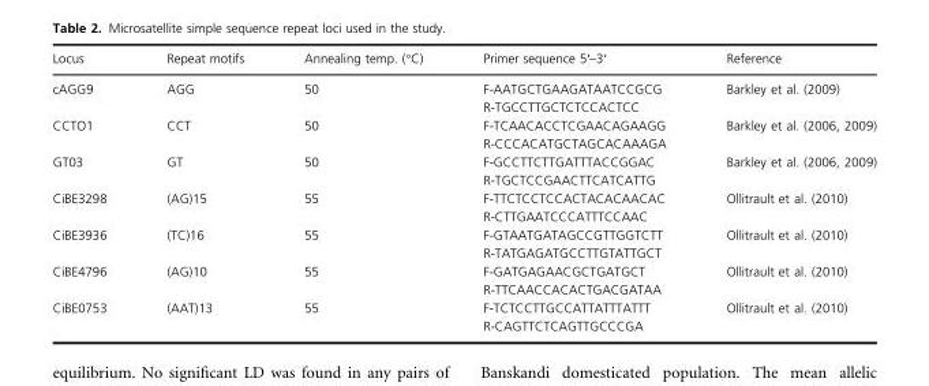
<table><thead><tr><td>Locus</td><td>Repeat motifs</td><td>Annealing temp. (°C)</td><td>Primer sequence 5ʹ–3ʹ</td><td>Reference</td></tr></thead><tbody><tr><td rowspan="2">cAGG9</td><td rowspan="2">AGG</td><td rowspan="2">50</td><td>F-AATGCTGAAGATAATCCGCG</td><td rowspan="2">Barkley et al. (2009)</td></tr><tr><td>R-TGCCTTGCTCTCCACTCC</td></tr><tr><td rowspan="2">CCTO1</td><td rowspan="2">CCT</td><td rowspan="2">50</td><td>F-TCAACACCTCGAACAGAAGG</td><td rowspan="2">Barkley et al. (2006, 2009)</td></tr><tr><td>R-CCCACATGCTAGCACAAAGA</td></tr><tr><td rowspan="2">GT03</td><td rowspan="2">GT</td><td rowspan="2">50</td><td>F-GCCTTCTTGATTTACCGGAC</td><td rowspan="2">Barkley et al. (2006, 2009)</td></tr><tr><td>R-TGCTCCGAACTTCATCATTG</td></tr><tr><td rowspan="2">CiBE3298</td><td rowspan="2">(AG)15</td><td rowspan="2">55</td><td>F-TTCTCCTCCACTACACAACAC</td><td rowspan="2">Ollitrault et al. (2010)</td></tr><tr><td>R-CTTGAATCCCATTTCCAAC</td></tr><tr><td rowspan="2">CiBE3936</td><td rowspan="2">(TC)16</td><td rowspan="2">55</td><td>F-GTAATGATAGCCGTTGGTCTT</td><td rowspan="2">Ollitrault et al. (2010)</td></tr><tr><td>R-TATGAGATGCCTTGTATTGCT</td></tr><tr><td rowspan="2">CiBE4796</td><td rowspan="2">(AG)10</td><td rowspan="2">55</td><td>F-GATGAGAACGCTGATGCT</td><td rowspan="2">Ollitrault et al. (2010)</td></tr><tr><td>R-TTCAACCACACTGACGATAA</td></tr><tr><td rowspan="2">CiBE0753</td><td rowspan="2">(AAT)13</td><td rowspan="2">55</td><td>F-TCTCCTTGCCATTATTTATTT</td><td rowspan="2">Ollitrault et al. (2010)</td></tr><tr><td>R-CAGTTCTCAGTTGCCCGA</td></tr></tbody></table>